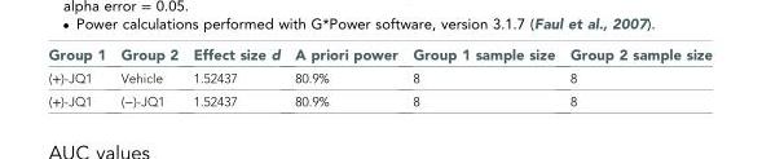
<table><thead><tr><td>Group 1</td><td>Group 2</td><td>Effect size d</td><td>A priori power</td><td>Group 1 sample size</td><td>Group 2 sample size</td></tr></thead><tbody><tr><td>(+)-JQ1</td><td>Vehicle</td><td>1.52437</td><td>80.9%</td><td>8</td><td>8</td></tr><tr><td>(+)-JQ1</td><td>(−)-JQ1</td><td>1.52437</td><td>80.9%</td><td>8</td><td>8</td></tr></tbody></table>